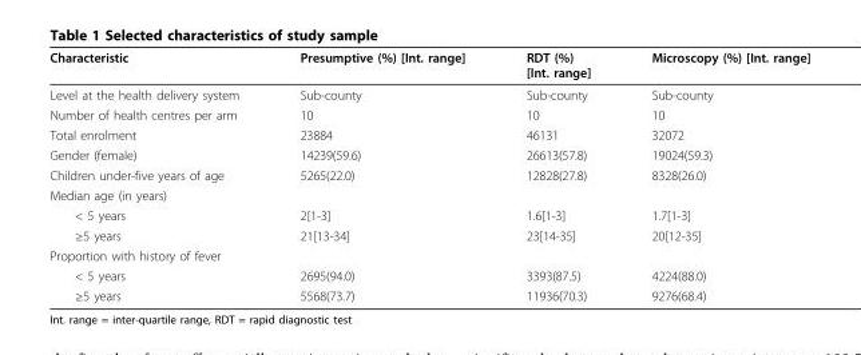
<table><thead><tr><td>Characteristic</td><td>Presumptive (%) [Int. range]</td><td>RDT (%) [Int. range]</td><td>Microscopy (%) [Int. range]</td></tr></thead><tbody><tr><td>Level at the health delivery system</td><td>Sub-county</td><td>Sub-county</td><td>Sub-county</td></tr><tr><td>Number of health centres per arm</td><td>10</td><td>10</td><td>10</td></tr><tr><td>Total enrolment</td><td>23884</td><td>46131</td><td>32072</td></tr><tr><td>Gender (female)</td><td>14239(59.6)</td><td>26613(57.8)</td><td>19024(59.3)</td></tr><tr><td>Children under-five years of age</td><td>5265(22.0)</td><td>12828(27.8)</td><td>8328(26.0)</td></tr><tr><td colspan="4">Median age (in years)</td></tr><tr><td>&lt; 5 years</td><td>2[1-3]</td><td>1.6[1-3]</td><td>1.7[1-3]</td></tr><tr><td>≥5 years</td><td>21[13-34]</td><td>23[14-35]</td><td>20[12-35]</td></tr><tr><td colspan="4">Proportion with history of fever</td></tr><tr><td>&lt; 5 years</td><td>2695(94.0)</td><td>3393(87.5)</td><td>4224(88.0)</td></tr><tr><td>≥5 years</td><td>5568(73.7)</td><td>11936(70.3)</td><td>9276(68.4)</td></tr></tbody></table>